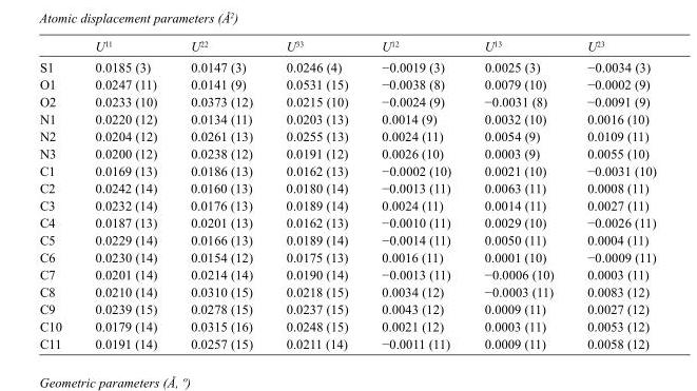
<table><thead><tr><td></td><td>U<sup>11</sup></td><td>U<sup>22</sup></td><td>U<sup>33</sup></td><td>U<sup>12</sup></td><td>U<sup>13</sup></td><td>U<sup>23</sup></td></tr></thead><tbody><tr><td>S1</td><td>0.0185 (3)</td><td>0.0147 (3)</td><td>0.0246 (4)</td><td>−0.0019 (3)</td><td>0.0025 (3)</td><td>−0.0034 (3)</td></tr><tr><td>O1</td><td>0.0247 (11)</td><td>0.0141 (9)</td><td>0.0531 (15)</td><td>−0.0038 (8)</td><td>0.0079 (10)</td><td>−0.0002 (9)</td></tr><tr><td>O2</td><td>0.0233 (10)</td><td>0.0373 (12)</td><td>0.0215 (10)</td><td>−0.0024 (9)</td><td>−0.0031 (8)</td><td>−0.0091 (9)</td></tr><tr><td>N1</td><td>0.0220 (12)</td><td>0.0134 (11)</td><td>0.0203 (13)</td><td>0.0014 (9)</td><td>0.0032 (10)</td><td>0.0016 (10)</td></tr><tr><td>N2</td><td>0.0204 (12)</td><td>0.0261 (13)</td><td>0.0255 (13)</td><td>0.0024 (11)</td><td>0.0054 (9)</td><td>0.0109 (11)</td></tr><tr><td>N3</td><td>0.0200 (12)</td><td>0.0238 (12)</td><td>0.0191 (12)</td><td>0.0026 (10)</td><td>0.0003 (9)</td><td>0.0055 (10)</td></tr><tr><td>C1</td><td>0.0169 (13)</td><td>0.0186 (13)</td><td>0.0162 (13)</td><td>−0.0002 (10)</td><td>0.0021 (10)</td><td>−0.0031 (10)</td></tr><tr><td>C2</td><td>0.0242 (14)</td><td>0.0160 (13)</td><td>0.0180 (14)</td><td>−0.0013 (11)</td><td>0.0063 (11)</td><td>0.0008 (11)</td></tr><tr><td>C3</td><td>0.0232 (14)</td><td>0.0176 (13)</td><td>0.0189 (14)</td><td>0.0024 (11)</td><td>0.0014 (11)</td><td>0.0027 (11)</td></tr><tr><td>C4</td><td>0.0187 (13)</td><td>0.0201 (13)</td><td>0.0162 (13)</td><td>−0.0010 (11)</td><td>0.0029 (10)</td><td>−0.0026 (11)</td></tr><tr><td>C5</td><td>0.0229 (14)</td><td>0.0166 (13)</td><td>0.0189 (14)</td><td>−0.0014 (11)</td><td>0.0050 (11)</td><td>0.0004 (11)</td></tr><tr><td>C6</td><td>0.0230 (14)</td><td>0.0154 (12)</td><td>0.0175 (13)</td><td>0.0016 (11)</td><td>0.0001 (10)</td><td>−0.0009 (11)</td></tr><tr><td>C7</td><td>0.0201 (14)</td><td>0.0214 (14)</td><td>0.0190 (14)</td><td>−0.0013 (11)</td><td>−0.0006 (10)</td><td>0.0003 (11)</td></tr><tr><td>C8</td><td>0.0210 (14)</td><td>0.0310 (15)</td><td>0.0218 (15)</td><td>0.0034 (12)</td><td>−0.0003 (11)</td><td>0.0083 (12)</td></tr><tr><td>C9</td><td>0.0239 (15)</td><td>0.0278 (15)</td><td>0.0237 (15)</td><td>0.0043 (12)</td><td>0.0009 (11)</td><td>0.0027 (12)</td></tr><tr><td>C10</td><td>0.0179 (14)</td><td>0.0315 (16)</td><td>0.0248 (15)</td><td>0.0021 (12)</td><td>0.0003 (11)</td><td>0.0053 (12)</td></tr><tr><td>C11</td><td>0.0191 (14)</td><td>0.0257 (15)</td><td>0.0211 (14)</td><td>−0.0011 (11)</td><td>0.0009 (11)</td><td>0.0058 (12)</td></tr></tbody></table>